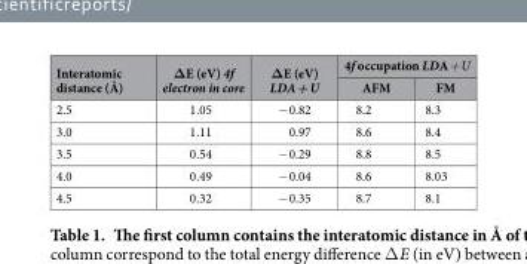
<table><thead><tr><td rowspan="2">Interatomic distance (Å)</td><td rowspan="2">ΔE (eV) 4f electron in core</td><td rowspan="2">ΔE (eV) LDA + U</td><td colspan="2">4f occupation LDA + U</td></tr><tr><td>AFM</td><td>FM</td></tr></thead><tbody><tr><td>2.5</td><td>1.05</td><td>− 0.82</td><td>8.2</td><td>8.3</td></tr><tr><td>3.0</td><td>1.11</td><td>0.97</td><td>8.6</td><td>8.4</td></tr><tr><td>3.5</td><td>0.54</td><td>− 0.29</td><td>8.8</td><td>8.5</td></tr><tr><td>4.0</td><td>0.49</td><td>− 0.04</td><td>8.6</td><td>8.03</td></tr><tr><td>4.5</td><td>0.32</td><td>− 0.35</td><td>8.7</td><td>8.1</td></tr></tbody></table>